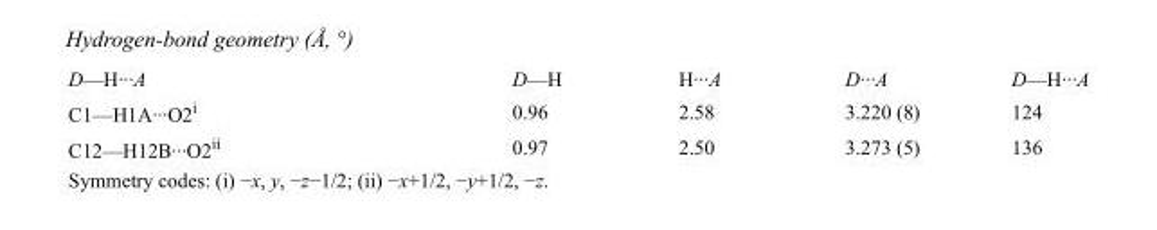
<table><tbody><tr><td>D—H···A</td><td>D—H</td><td>H···A</td><td>D···A</td><td>D—H···A</td></tr><tr><td>C1—H1A···O2<sup>i</sup></td><td>0.96</td><td>2.58</td><td>3.220 (8)</td><td>124</td></tr><tr><td>C12—H12B···O2<sup>ii</sup></td><td>0.97</td><td>2.50</td><td>3.273 (5)</td><td>136</td></tr></tbody></table>